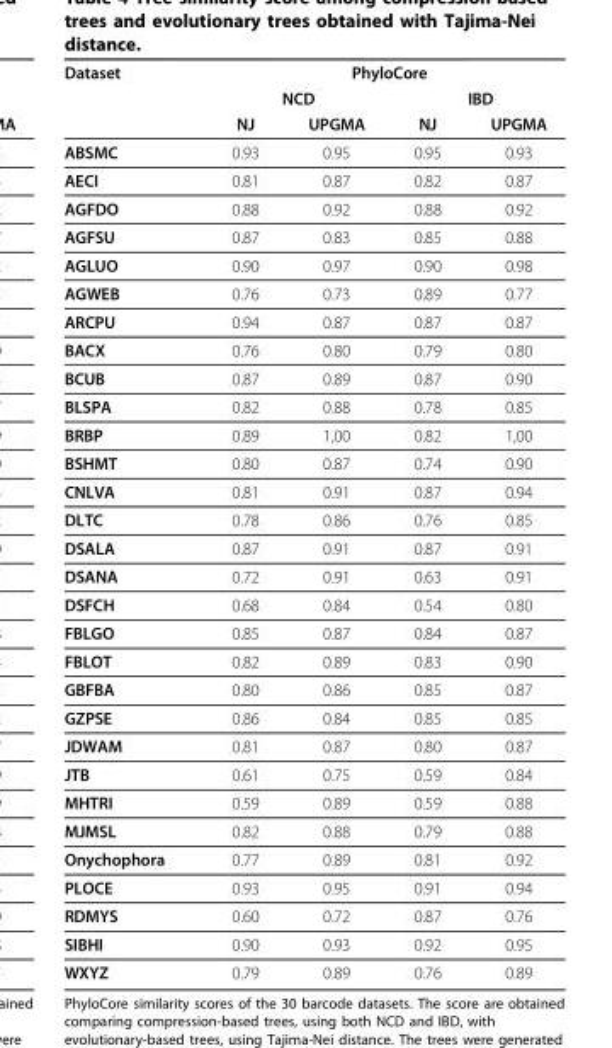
<table><thead><tr><td rowspan="3">Dataset</td><td colspan="4">PhyloCore</td></tr><tr><td colspan="2">NCD</td><td colspan="2">IBD</td></tr><tr><td>NJ</td><td>UPGMA</td><td>NJ</td><td>UPGMA</td></tr></thead><tbody><tr><td>ABSMC</td><td>0.93</td><td>0.95</td><td>0.95</td><td>0.93</td></tr><tr><td>AECI</td><td>0.81</td><td>0.87</td><td>0.82</td><td>0.87</td></tr><tr><td>AGFDO</td><td>0.88</td><td>0.92</td><td>0.88</td><td>0.92</td></tr><tr><td>AGFSU</td><td>0.87</td><td>0.83</td><td>0.85</td><td>0.88</td></tr><tr><td>AGLUO</td><td>0.90</td><td>0.97</td><td>0.90</td><td>0.98</td></tr><tr><td>AGWEB</td><td>0.76</td><td>0.73</td><td>0.89</td><td>0.77</td></tr><tr><td>ARCPU</td><td>0.94</td><td>0.87</td><td>0.87</td><td>0.87</td></tr><tr><td>BACX</td><td>0.76</td><td>0.80</td><td>0.79</td><td>0.80</td></tr><tr><td>BCUB</td><td>0.87</td><td>0.89</td><td>0.87</td><td>0.90</td></tr><tr><td>BLSPA</td><td>0.82</td><td>0.88</td><td>0.78</td><td>0.85</td></tr><tr><td>BRBP</td><td>0.89</td><td>1,00</td><td>0.82</td><td>1,00</td></tr><tr><td>BSHMT</td><td>0.80</td><td>0.87</td><td>0.74</td><td>0.90</td></tr><tr><td>CNLVA</td><td>0.81</td><td>0.91</td><td>0.87</td><td>0.94</td></tr><tr><td>DLTC</td><td>0.78</td><td>0.86</td><td>0.76</td><td>0.85</td></tr><tr><td>DSALA</td><td>0.87</td><td>0.91</td><td>0.87</td><td>0.91</td></tr><tr><td>DSANA</td><td>0.72</td><td>0.91</td><td>0.63</td><td>0.91</td></tr><tr><td>DSFCH</td><td>0.68</td><td>0.84</td><td>0.54</td><td>0.80</td></tr><tr><td>FBLGO</td><td>0.85</td><td>0.87</td><td>0.84</td><td>0.87</td></tr><tr><td>FBLOT</td><td>0.82</td><td>0.89</td><td>0.83</td><td>0.90</td></tr><tr><td>GBFBA</td><td>0.80</td><td>0.86</td><td>0.85</td><td>0.87</td></tr><tr><td>GZPSE</td><td>0.86</td><td>0.84</td><td>0.85</td><td>0.85</td></tr><tr><td>JDWAM</td><td>0.81</td><td>0.87</td><td>0.80</td><td>0.87</td></tr><tr><td>JTB</td><td>0.61</td><td>0.75</td><td>0.59</td><td>0.84</td></tr><tr><td>MHTRI</td><td>0.59</td><td>0.89</td><td>0.59</td><td>0.88</td></tr><tr><td>MJMSL</td><td>0.82</td><td>0.88</td><td>0.79</td><td>0.88</td></tr><tr><td>Onychophora</td><td>0.77</td><td>0.89</td><td>0.81</td><td>0.92</td></tr><tr><td>PLOCE</td><td>0.93</td><td>0.95</td><td>0.91</td><td>0.94</td></tr><tr><td>RDMYS</td><td>0.60</td><td>0.72</td><td>0.87</td><td>0.76</td></tr><tr><td>SIBHI</td><td>0.90</td><td>0.93</td><td>0.92</td><td>0.95</td></tr><tr><td>WXYZ</td><td>0.79</td><td>0.89</td><td>0.76</td><td>0.89</td></tr></tbody></table>